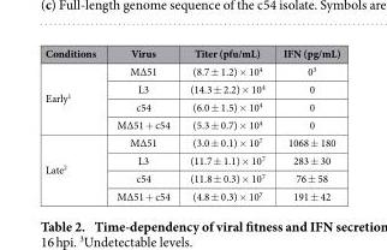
<table><thead><tr><td>Conditions</td><td>Virus</td><td>Titer (pfu/mL)</td><td>IFN (pg/mL)</td></tr></thead><tbody><tr><td rowspan="4">Early<sup>1</sup></td><td>MΔ51</td><td>(8.7 ± 1.2) × 10<sup>4</sup></td><td>0<sup>3</sup></td></tr><tr><td>L3</td><td>(14.3 ± 2.2) × 10<sup>4</sup></td><td>0</td></tr><tr><td>c54</td><td>(6.0 ± 1.5) × 10<sup>4</sup></td><td>0</td></tr><tr><td>MΔ51 + c54</td><td>(5.3 ± 0.7) × 10<sup>4</sup></td><td>0</td></tr><tr><td rowspan="4">Late<sup>2</sup></td><td>MΔ51</td><td>(3.0 ± 0.1) × 10<sup>7</sup></td><td>1068 ± 180</td></tr><tr><td>L3</td><td>(11.7 ± 1.1) × 10<sup>7</sup></td><td>283 ± 30</td></tr><tr><td>c54</td><td>(11.8 ± 0.3) × 10<sup>7</sup></td><td>76 ± 58</td></tr><tr><td>MΔ51 + c54</td><td>(4.8 ± 0.3) × 10<sup>7</sup></td><td>191 ± 42</td></tr></tbody></table>